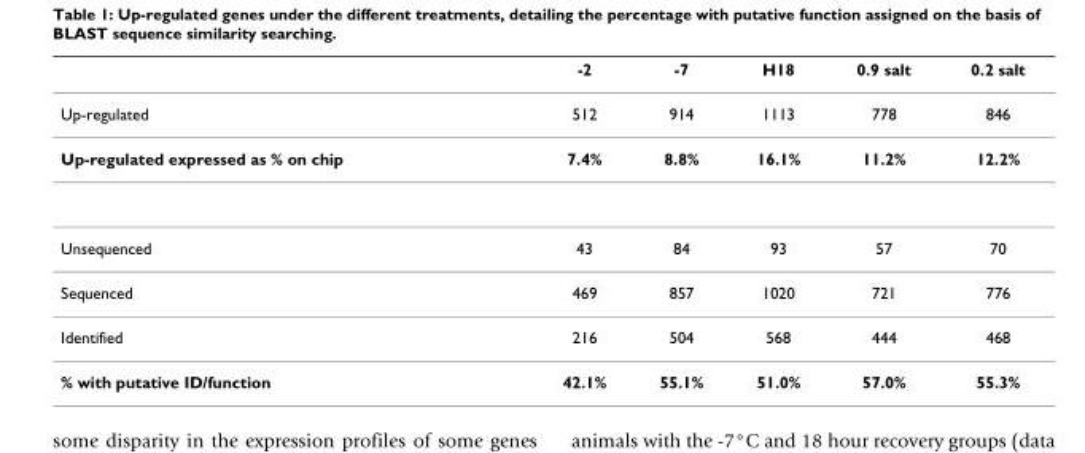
<table><thead><tr><td></td><td>-2</td><td>-7</td><td>H18</td><td>0.9 salt</td><td>0.2 salt</td></tr></thead><tbody><tr><td>Up-regulated</td><td>512</td><td>914</td><td>1113</td><td>778</td><td>846</td></tr><tr><td>Up-regulated expressed as % on chip</td><td>7.4%</td><td>8.8%</td><td>16.1%</td><td>11.2%</td><td>12.2%</td></tr><tr><td>Unsequenced</td><td>43</td><td>84</td><td>93</td><td>57</td><td>70</td></tr><tr><td>Sequenced</td><td>469</td><td>857</td><td>1020</td><td>721</td><td>776</td></tr><tr><td>Identified</td><td>216</td><td>504</td><td>568</td><td>444</td><td>468</td></tr><tr><td>% with putative ID/function</td><td>42.1%</td><td>55.1%</td><td>51.0%</td><td>57.0%</td><td>55.3%</td></tr></tbody></table>